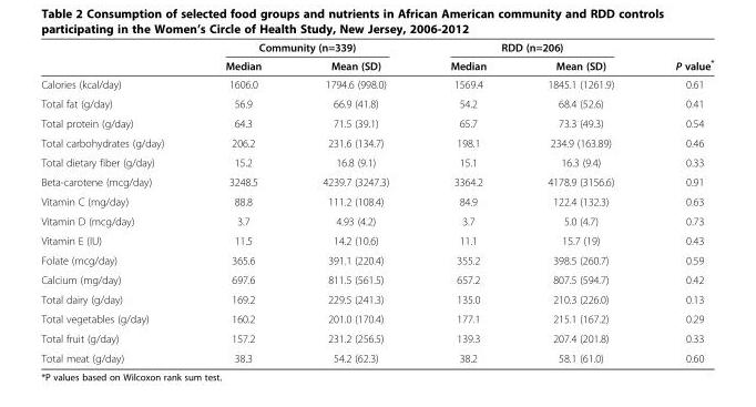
<table><thead><tr><td rowspan="2"></td><td colspan="2">Community (n=339)</td><td colspan="2">RDD (n=206)</td><td rowspan="2">P value*</td></tr><tr><td>Median</td><td>Mean (SD)</td><td>Median</td><td>Mean (SD)</td></tr></thead><tbody><tr><td>Calories (kcal/day)</td><td>1606.0</td><td>1794.6 (998.0)</td><td>1569.4</td><td>1845.1 (1261.9)</td><td>0.61</td></tr><tr><td>Total fat (g/day)</td><td>56.9</td><td>66.9 (41.8)</td><td>54.2</td><td>68.4 (52.6)</td><td>0.41</td></tr><tr><td>Total protein (g/day)</td><td>64.3</td><td>71.5 (39.1)</td><td>65.7</td><td>73.3 (49.3)</td><td>0.54</td></tr><tr><td>Total carbohydrates (g/day)</td><td>206.2</td><td>231.6 (134.7)</td><td>198.1</td><td>234.9 (163.89)</td><td>0.46</td></tr><tr><td>Total dietary fiber (g/day)</td><td>15.2</td><td>16.8 (9.1)</td><td>15.1</td><td>16.3 (9.4)</td><td>0.33</td></tr><tr><td>Beta-carotene (mcg/day)</td><td>3248.5</td><td>4239.7 (3247.3)</td><td>3364.2</td><td>4178.9 (3156.6)</td><td>0.91</td></tr><tr><td>Vitamin C (mg/day)</td><td>88.8</td><td>111.2 (108.4)</td><td>84.9</td><td>122.4 (132.3)</td><td>0.63</td></tr><tr><td>Vitamin D (mcg/day)</td><td>3.7</td><td>4.93 (4.2)</td><td>3.7</td><td>5.0 (4.7)</td><td>0.73</td></tr><tr><td>Vitamin E (IU)</td><td>11.5</td><td>14.2 (10.6)</td><td>11.1</td><td>15.7 (19)</td><td>0.43</td></tr><tr><td>Folate (mcg/day)</td><td>365.6</td><td>391.1 (220.4)</td><td>355.2</td><td>398.5 (260.7)</td><td>0.59</td></tr><tr><td>Calcium (mg/day)</td><td>697.6</td><td>811.5 (561.5)</td><td>657.2</td><td>807.5 (594.7)</td><td>0.42</td></tr><tr><td>Total dairy (g/day)</td><td>169.2</td><td>229.5 (241.3)</td><td>135.0</td><td>210.3 (226.0)</td><td>0.13</td></tr><tr><td>Total vegetables (g/day)</td><td>160.2</td><td>201.0 (170.4)</td><td>177.1</td><td>215.1 (167.2)</td><td>0.29</td></tr><tr><td>Total fruit (g/day)</td><td>157.2</td><td>231.2 (256.5)</td><td>139.3</td><td>207.4 (201.8)</td><td>0.33</td></tr><tr><td>Total meat (g/day)</td><td>38.3</td><td>54.2 (62.3)</td><td>38.2</td><td>58.1 (61.0)</td><td>0.60</td></tr></tbody></table>